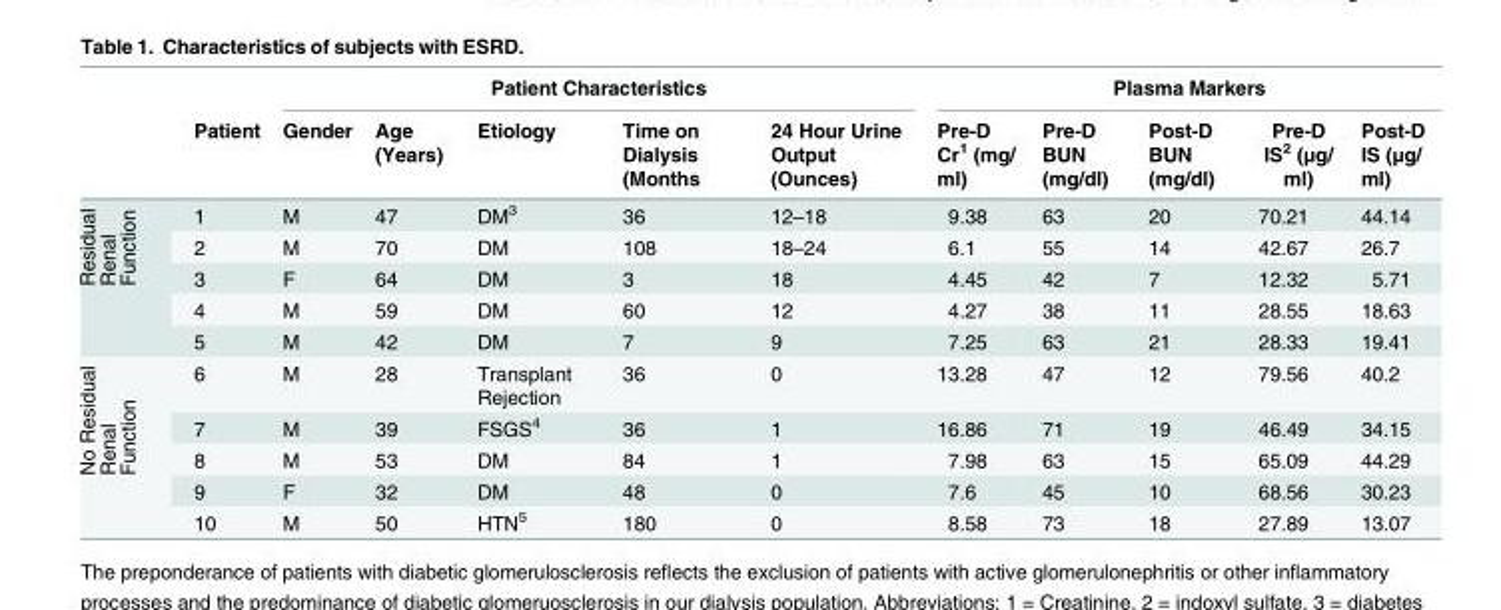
<table><thead><tr><td rowspan="2"></td><td rowspan="2">Patient</td><td colspan="5">Patient Characteristics</td><td colspan="5">Plasma Markers</td></tr><tr><td>Gender</td><td>Age (Years)</td><td>Etiology</td><td>Time on Dialysis (Months</td><td>24 Hour Urine Output (Ounces)</td><td>Pre-D Cr<sup>1</sup> (mg/ ml)</td><td>Pre-D BUN (mg/dl)</td><td>Post-D BUN (mg/dl)</td><td>Pre-D IS<sup>2</sup> (μg/ ml)</td><td>Post-D IS (μg/ ml)</td></tr></thead><tbody><tr><td rowspan="5">Residual Renal Function</td><td>1</td><td>M</td><td>47</td><td>DM<sup>3</sup></td><td>36</td><td>12–18</td><td>9.38</td><td>63</td><td>20</td><td>70.21</td><td>44.14</td></tr><tr><td>2</td><td>M</td><td>70</td><td>DM</td><td>108</td><td>18–24</td><td>6.1</td><td>55</td><td>14</td><td>42.67</td><td>26.7</td></tr><tr><td>3</td><td>F</td><td>64</td><td>DM</td><td>3</td><td>18</td><td>4.45</td><td>42</td><td>7</td><td>12.32</td><td>5.71</td></tr><tr><td>4</td><td>M</td><td>59</td><td>DM</td><td>60</td><td>12</td><td>4.27</td><td>38</td><td>11</td><td>28.55</td><td>18.63</td></tr><tr><td>5</td><td>M</td><td>42</td><td>DM</td><td>7</td><td>9</td><td>7.25</td><td>63</td><td>21</td><td>28.33</td><td>19.41</td></tr><tr><td rowspan="5">No Residual Renal Function</td><td>6</td><td>M</td><td>28</td><td>Transplant Rejection</td><td>36</td><td>0</td><td>13.28</td><td>47</td><td>12</td><td>79.56</td><td>40.2</td></tr><tr><td>7</td><td>M</td><td>39</td><td>FSGS<sup>4</sup></td><td>36</td><td>1</td><td>16.86</td><td>71</td><td>19</td><td>46.49</td><td>34.15</td></tr><tr><td>8</td><td>M</td><td>53</td><td>DM</td><td>84</td><td>1</td><td>7.98</td><td>63</td><td>15</td><td>65.09</td><td>44.29</td></tr><tr><td>9</td><td>F</td><td>32</td><td>DM</td><td>48</td><td>0</td><td>7.6</td><td>45</td><td>10</td><td>68.56</td><td>30.23</td></tr><tr><td>10</td><td>M</td><td>50</td><td>HTN<sup>5</sup></td><td>180</td><td>0</td><td>8.58</td><td>73</td><td>18</td><td>27.89</td><td>13.07</td></tr></tbody></table>